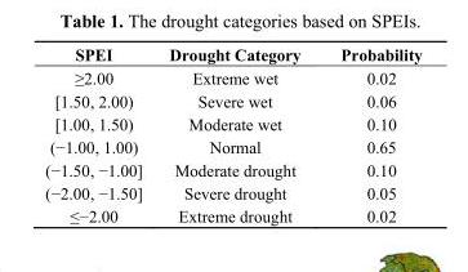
<table><thead><tr><td>SPEI</td><td>Drought Category</td><td>Probability</td></tr></thead><tbody><tr><td>≥2.00</td><td>Extreme wet</td><td>0.02</td></tr><tr><td>[1.50, 2.00)</td><td>Severe wet</td><td>0.06</td></tr><tr><td>[1.00, 1.50)</td><td>Moderate wet</td><td>0.10</td></tr><tr><td>(−1.00, 1.00)</td><td>Normal</td><td>0.65</td></tr><tr><td>(−1.50, −1.00]</td><td>Moderate drought</td><td>0.10</td></tr><tr><td>(−2.00, −1.50]</td><td>Severe drought</td><td>0.05</td></tr><tr><td>≤−2.00</td><td>Extreme drought</td><td>0.02</td></tr></tbody></table>